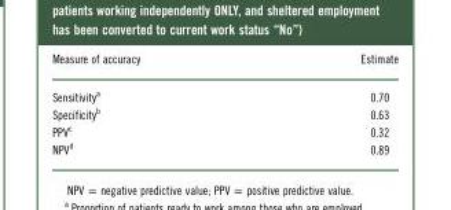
<table><thead><tr><td>Measure of accuracy</td><td>Estimate</td></tr></thead><tbody><tr><td>Sensitivity<sup>a</sup></td><td>0.70</td></tr><tr><td>Specificity<sup>b</sup></td><td>0.63</td></tr><tr><td>PPV<sup>c</sup></td><td>0.32</td></tr><tr><td>NPV<sup>d</sup></td><td>0.89</td></tr></tbody></table>